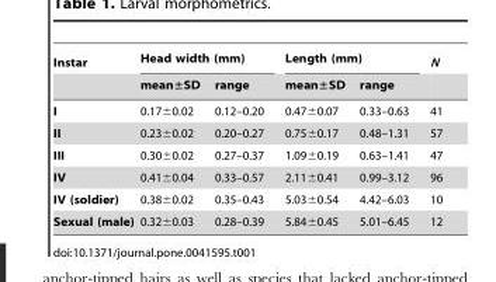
<table><thead><tr><td rowspan="2">Instar</td><td colspan="2">Head width (mm)</td><td colspan="2">Length (mm)</td><td rowspan="2">N</td></tr><tr><td>mean±SD</td><td>range</td><td>mean±SD</td><td>range</td></tr></thead><tbody><tr><td>I</td><td>0.17±0.02</td><td>0.12–0.20</td><td>0.47±0.07</td><td>0.33–0.63</td><td>41</td></tr><tr><td>II</td><td>0.23±0.02</td><td>0.20–0.27</td><td>0.75±0.17</td><td>0.48–1.31</td><td>57</td></tr><tr><td>III</td><td>0.30±0.02</td><td>0.27–0.37</td><td>1.09±0.19</td><td>0.63–1.41</td><td>47</td></tr><tr><td>IV</td><td>0.41±0.04</td><td>0.33–0.57</td><td>2.11±0.41</td><td>0.99–3.12</td><td>96</td></tr><tr><td>IV (soldier)</td><td>0.38±0.02</td><td>0.35–0.43</td><td>5.03±0.54</td><td>4.42–6.03</td><td>10</td></tr><tr><td>Sexual (male)</td><td>0.32±0.03</td><td>0.28–0.39</td><td>5.84±0.45</td><td>5.01–6.45</td><td>12</td></tr></tbody></table>